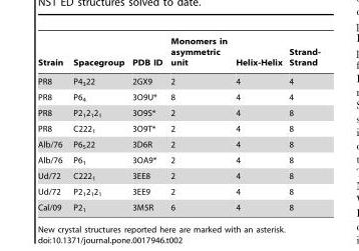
<table><thead><tr><td>Strain</td><td>Spacegroup</td><td>PDB ID</td><td>Monomers in asymmetric unit</td><td>Helix-Helix</td><td>Strand- Strand</td></tr></thead><tbody><tr><td>PR8</td><td>P4<sub>3</sub>22</td><td>2GX9</td><td>2</td><td>4</td><td>4</td></tr><tr><td>PR8</td><td>P6<sub>4</sub></td><td>3O9U*</td><td>8</td><td>4</td><td>4</td></tr><tr><td>PR8</td><td>P2<sub>1</sub>2<sub>1</sub>2<sub>1</sub></td><td>3O9S*</td><td>2</td><td>4</td><td>8</td></tr><tr><td>PR8</td><td>C222<sub>1</sub></td><td>3O9T*</td><td>2</td><td>4</td><td>8</td></tr><tr><td>Alb/76</td><td>P6<sub>5</sub>22</td><td>3D6R</td><td>2</td><td>4</td><td>8</td></tr><tr><td>Alb/76</td><td>P6<sub>1</sub></td><td>3OA9*</td><td>2</td><td>4</td><td>8</td></tr><tr><td>Ud/72</td><td>C222<sub>1</sub></td><td>3EE8</td><td>2</td><td>4</td><td>8</td></tr><tr><td>Ud/72</td><td>P2<sub>1</sub>2<sub>1</sub>2<sub>1</sub></td><td>3EE9</td><td>2</td><td>4</td><td>8</td></tr><tr><td>Cal/09</td><td>P2<sub>1</sub></td><td>3M5R</td><td>6</td><td>4</td><td>8</td></tr></tbody></table>